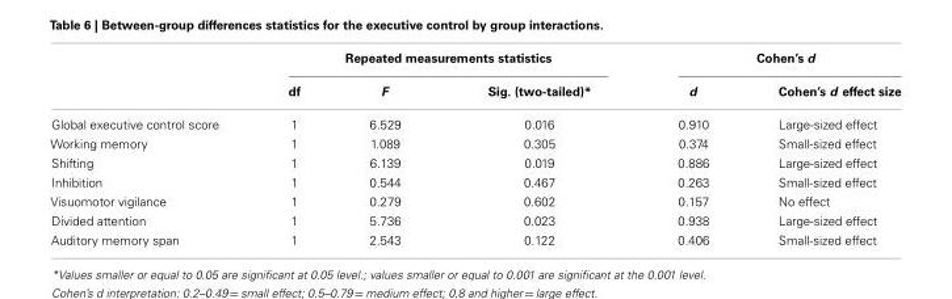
<table><thead><tr><td rowspan="2"></td><td colspan="3">Repeated measurements statistics</td><td colspan="2">Cohen’s d</td></tr><tr><td>df</td><td>F</td><td>Sig. (two-tailed)*</td><td>d</td><td>Cohen’s d effect size</td></tr></thead><tbody><tr><td>Global executive control score</td><td>1</td><td>6.529</td><td>0.016</td><td>0.910</td><td>Large-sized effect</td></tr><tr><td>Working memory</td><td>1</td><td>1.089</td><td>0.305</td><td>0.374</td><td>Small-sized effect</td></tr><tr><td>Shifting</td><td>1</td><td>6.139</td><td>0.019</td><td>0.886</td><td>Large-sized effect</td></tr><tr><td>Inhibition</td><td>1</td><td>0.544</td><td>0.467</td><td>0.263</td><td>Small-sized effect</td></tr><tr><td>Visuomotor vigilance</td><td>1</td><td>0.279</td><td>0.602</td><td>0.157</td><td>No effect</td></tr><tr><td>Divided attention</td><td>1</td><td>5.736</td><td>0.023</td><td>0.938</td><td>Large-sized effect</td></tr><tr><td>Auditory memory span</td><td>1</td><td>2.543</td><td>0.122</td><td>0.406</td><td>Small-sized effect</td></tr></tbody></table>